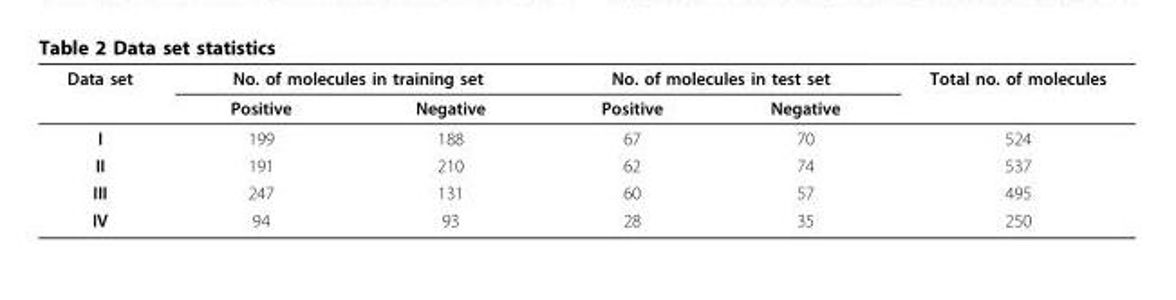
<table><thead><tr><td rowspan="2">Data set</td><td colspan="2">No. of molecules in training set</td><td colspan="2">No. of molecules in test set</td><td rowspan="2">Total no. of molecules</td></tr><tr><td>Positive</td><td>Negative</td><td>Positive</td><td>Negative</td></tr></thead><tbody><tr><td>I</td><td>199</td><td>188</td><td>67</td><td>70</td><td>524</td></tr><tr><td>II</td><td>191</td><td>210</td><td>62</td><td>74</td><td>537</td></tr><tr><td>III</td><td>247</td><td>131</td><td>60</td><td>57</td><td>495</td></tr><tr><td>IV</td><td>94</td><td>93</td><td>28</td><td>35</td><td>250</td></tr></tbody></table>